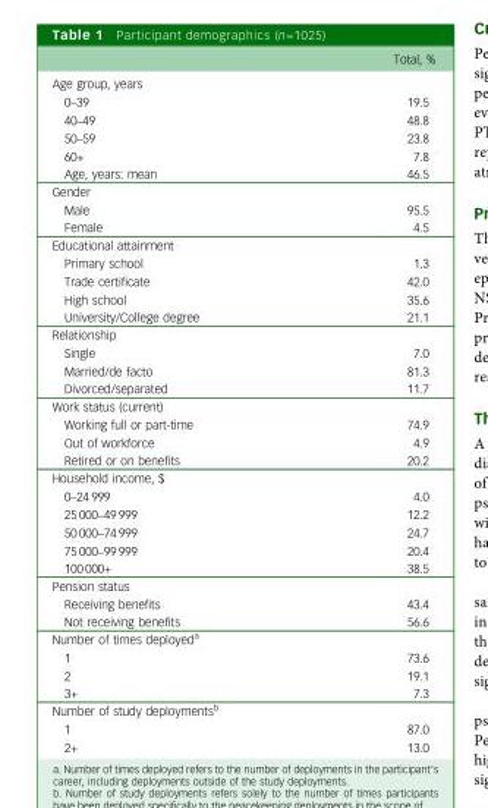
<table><thead><tr><td></td><td>Total, %</td></tr></thead><tbody><tr><td colspan="2">Age group, years</td></tr><tr><td>0–39</td><td>19.5</td></tr><tr><td>40–49</td><td>48.8</td></tr><tr><td>50–59</td><td>23.8</td></tr><tr><td>60+</td><td>7.8</td></tr><tr><td>Age, years: mean</td><td>46.5</td></tr><tr><td colspan="2">Gender</td></tr><tr><td>Male</td><td>95.5</td></tr><tr><td>Female</td><td>4.5</td></tr><tr><td colspan="2">Educational attainment</td></tr><tr><td>Primary school</td><td>1.3</td></tr><tr><td>Trade certificate</td><td>42.0</td></tr><tr><td>High school</td><td>35.6</td></tr><tr><td>University/College degree</td><td>21.1</td></tr><tr><td colspan="2">Relationship</td></tr><tr><td>Single</td><td>7.0</td></tr><tr><td>Married/de facto</td><td>81.3</td></tr><tr><td>Divorced/separated</td><td>11.7</td></tr><tr><td colspan="2">Work status (current)</td></tr><tr><td>Working full or part-time</td><td>74.9</td></tr><tr><td>Out of workforce</td><td>4.9</td></tr><tr><td>Retired or on benefits</td><td>20.2</td></tr><tr><td colspan="2">Household income, $</td></tr><tr><td>0–24 999</td><td>4.0</td></tr><tr><td>25 000–49 999</td><td>12.2</td></tr><tr><td>50 000–74 999</td><td>24.7</td></tr><tr><td>75 000–99 999</td><td>20.4</td></tr><tr><td>100 000+</td><td>38.5</td></tr><tr><td colspan="2">Pension status</td></tr><tr><td>Receiving benefits</td><td>43.4</td></tr><tr><td>Not receiving benefits</td><td>56.6</td></tr><tr><td colspan="2">Number of times deployed<sup>a</sup></td></tr><tr><td>1</td><td>73.6</td></tr><tr><td>2</td><td>19.1</td></tr><tr><td>3+</td><td>7.3</td></tr><tr><td colspan="2">Number of study deployments<sup>b</sup></td></tr><tr><td>1</td><td>87.0</td></tr><tr><td>2+</td><td>13.0</td></tr></tbody></table>